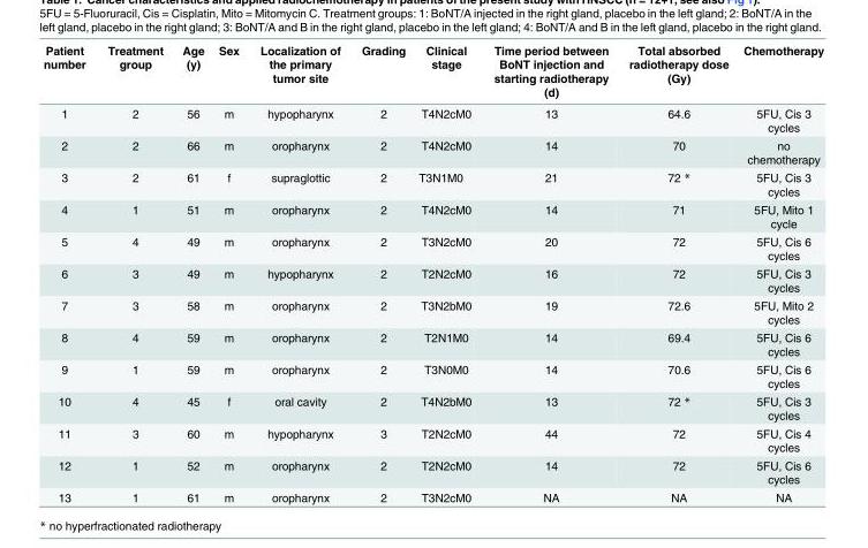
<table><thead><tr><td>Patient number</td><td>Treatment group</td><td>Age (y)</td><td>Sex</td><td>Localization of the primary tumor site</td><td>Grading</td><td>Clinical stage</td><td>Time period between BoNT injection and starting radiotherapy (d)</td><td>Total absorbed radiotherapy dose (Gy)</td><td>Chemotherapy</td></tr></thead><tbody><tr><td>1</td><td>2</td><td>56</td><td>m</td><td>hypopharynx</td><td>2</td><td>T4N2cM0</td><td>13</td><td>64.6</td><td>5FU, Cis 3 cycles</td></tr><tr><td>2</td><td>2</td><td>66</td><td>m</td><td>oropharynx</td><td>2</td><td>T4N2cM0</td><td>14</td><td>70</td><td>no chemotherapy</td></tr><tr><td>3</td><td>2</td><td>61</td><td>f</td><td>supraglottic</td><td>2</td><td>T3N1M0</td><td>21</td><td>72 *</td><td>5FU, Cis 3 cycles</td></tr><tr><td>4</td><td>1</td><td>51</td><td>m</td><td>oropharynx</td><td>2</td><td>T4N2cM0</td><td>14</td><td>71</td><td>5FU, Mito 1 cycle</td></tr><tr><td>5</td><td>4</td><td>49</td><td>m</td><td>oropharynx</td><td>2</td><td>T3N2cM0</td><td>20</td><td>72</td><td>5FU, Cis 6 cycles</td></tr><tr><td>6</td><td>3</td><td>49</td><td>m</td><td>hypopharynx</td><td>2</td><td>T2N2cM0</td><td>16</td><td>72</td><td>5FU, Cis 3 cycles</td></tr><tr><td>7</td><td>3</td><td>58</td><td>m</td><td>oropharynx</td><td>2</td><td>T3N2bM0</td><td>19</td><td>72.6</td><td>5FU, Mito 2 cycles</td></tr><tr><td>8</td><td>4</td><td>59</td><td>m</td><td>oropharynx</td><td>2</td><td>T2N1M0</td><td>14</td><td>69.4</td><td>5FU, Cis 6 cycles</td></tr><tr><td>9</td><td>1</td><td>59</td><td>m</td><td>oropharynx</td><td>2</td><td>T3N0M0</td><td>14</td><td>70.6</td><td>5FU, Cis 6 cycles</td></tr><tr><td>10</td><td>4</td><td>45</td><td>f</td><td>oral cavity</td><td>2</td><td>T4N2bM0</td><td>13</td><td>72 *</td><td>5FU, Cis 3 cycles</td></tr><tr><td>11</td><td>3</td><td>60</td><td>m</td><td>hypopharynx</td><td>3</td><td>T2N2cM0</td><td>44</td><td>72</td><td>5FU, Cis 4 cycles</td></tr><tr><td>12</td><td>1</td><td>52</td><td>m</td><td>oropharynx</td><td>2</td><td>T2N2cM0</td><td>14</td><td>72</td><td>5FU, Cis 6 cycles</td></tr><tr><td>13</td><td>1</td><td>61</td><td>m</td><td>oropharynx</td><td>2</td><td>T3N2cM0</td><td>NA</td><td>NA</td><td>NA</td></tr></tbody></table>